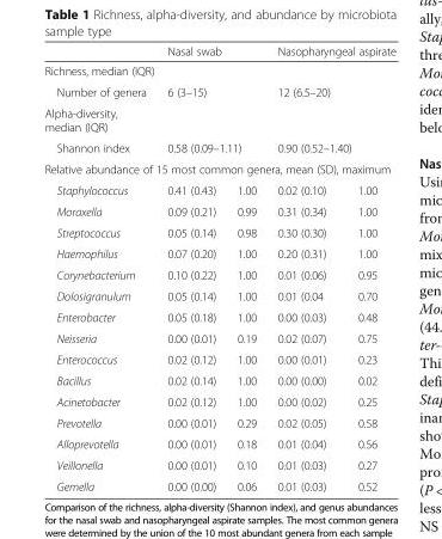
<table><thead><tr><td></td><td colspan="2">Nasal swab</td><td colspan="2">Nasopharyngeal aspirate</td></tr></thead><tbody><tr><td colspan="5">Richness, median (IQR)</td></tr><tr><td>Number of genera</td><td colspan="2">6 (3–15)</td><td colspan="2">12 (6.5–20)</td></tr><tr><td colspan="5">Alpha-diversity, median (IQR)</td></tr><tr><td>Shannon index</td><td colspan="2">0.58 (0.09–1.11)</td><td colspan="2">0.90 (0.52–1.40)</td></tr><tr><td colspan="5">Relative abundance of 15 most common genera, mean (SD), maximum</td></tr><tr><td>Staphylococcus</td><td>0.41 (0.43)</td><td>1.00</td><td>0.02 (0.10)</td><td>1.00</td></tr><tr><td>Moraxella</td><td>0.09 (0.21)</td><td>0.99</td><td>0.31 (0.34)</td><td>1.00</td></tr><tr><td>Streptococcus</td><td>0.05 (0.14)</td><td>0.98</td><td>0.30 (0.30)</td><td>1.00</td></tr><tr><td>Haemophilus</td><td>0.07 (0.20)</td><td>1.00</td><td>0.20 (0.31)</td><td>1.00</td></tr><tr><td>Corynebacterium</td><td>0.10 (0.22)</td><td>1.00</td><td>0.01 (0.06)</td><td>0.95</td></tr><tr><td>Dolosigranulum</td><td>0.05 (0.14)</td><td>1.00</td><td>0.01 (0.04</td><td>0.70</td></tr><tr><td>Enterobacter</td><td>0.05 (0.18)</td><td>1.00</td><td>0.00 (0.03)</td><td>0.48</td></tr><tr><td>Neisseria</td><td>0.00 (0.01)</td><td>0.19</td><td>0.02 (0.07)</td><td>0.75</td></tr><tr><td>Enterococcus</td><td>0.02 (0.12)</td><td>1.00</td><td>0.00 (0.01)</td><td>0.23</td></tr><tr><td>Bacillus</td><td>0.02 (0.14)</td><td>1.00</td><td>0.00 (0.00)</td><td>0.02</td></tr><tr><td>Acinetobacter</td><td>0.02 (0.12)</td><td>1.00</td><td>0.00 (0.02)</td><td>0.25</td></tr><tr><td>Prevotella</td><td>0.00 (0.01)</td><td>0.29</td><td>0.02 (0.05)</td><td>0.58</td></tr><tr><td>Alloprevotella</td><td>0.00 (0.01)</td><td>0.18</td><td>0.01 (0.04)</td><td>0.56</td></tr><tr><td>Veillonella</td><td>0.00 (0.01)</td><td>0.10</td><td>0.01 (0.03)</td><td>0.27</td></tr><tr><td>Gemella</td><td>0.00 (0.00)</td><td>0.06</td><td>0.01 (0.03)</td><td>0.52</td></tr></tbody></table>